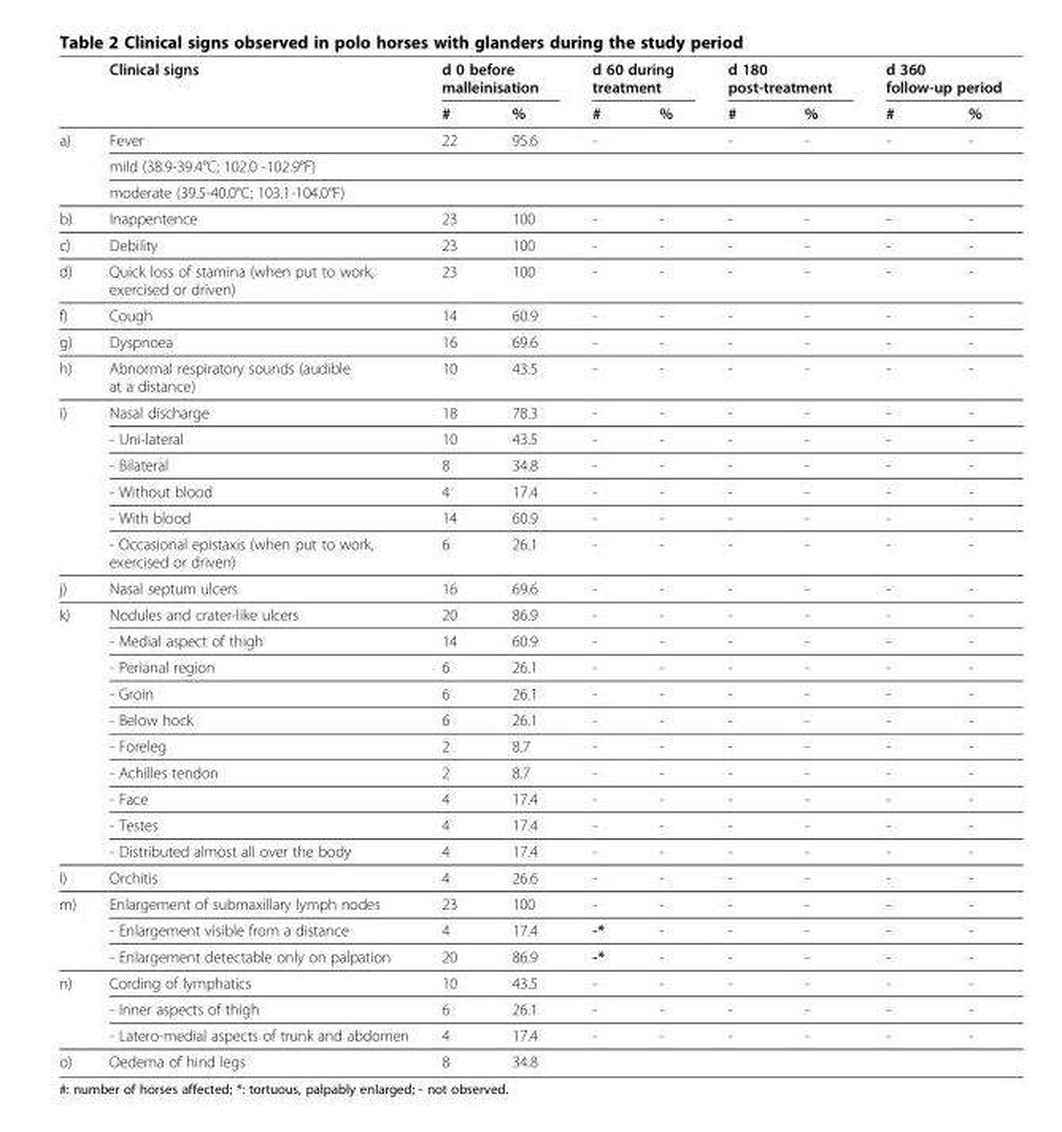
<table><thead><tr><td rowspan="2"></td><td rowspan="2">Clinical signs</td><td colspan="2">d 0 before malleinisation</td><td colspan="2">d 60 during treatment</td><td colspan="2">d 180 post-treatment</td><td colspan="2">d 360 follow-up period</td></tr><tr><td>#</td><td>%</td><td>#</td><td>%</td><td>#</td><td>%</td><td>#</td><td>%</td></tr></thead><tbody><tr><td rowspan="3">a)</td><td>Fever</td><td>22</td><td>95.6</td><td>-</td><td></td><td>-</td><td>-</td><td>-</td><td>-</td></tr><tr><td>mild (38.9-39.4°C; 102.0 -102.9°F)</td><td></td><td></td><td></td><td></td><td></td><td></td><td></td><td></td></tr><tr><td>moderate (39.5-40.0°C; 103.1-104.0°F)</td><td></td><td></td><td></td><td></td><td></td><td></td><td></td><td></td></tr><tr><td>b)</td><td>Inappentence</td><td>23</td><td>100</td><td>-</td><td>-</td><td>-</td><td>-</td><td>-</td><td>-</td></tr><tr><td>c)</td><td>Debility</td><td>23</td><td>100</td><td>-</td><td>-</td><td>-</td><td>-</td><td>-</td><td>-</td></tr><tr><td>d)</td><td>Quick loss of stamina (when put to work, exercised or driven)</td><td>23</td><td>100</td><td>-</td><td>-</td><td>-</td><td>-</td><td>-</td><td>-</td></tr><tr><td>f)</td><td>Cough</td><td>14</td><td>60.9</td><td>-</td><td>-</td><td>-</td><td>-</td><td>-</td><td>-</td></tr><tr><td>g)</td><td>Dyspnoea</td><td>16</td><td>69.6</td><td>-</td><td>-</td><td>-</td><td>-</td><td>-</td><td>-</td></tr><tr><td>h)</td><td>Abnormal respiratory sounds (audible at a distance)</td><td>10</td><td>43.5</td><td>-</td><td>-</td><td>-</td><td>-</td><td>-</td><td>-</td></tr><tr><td rowspan="6">i)</td><td>Nasal discharge</td><td>18</td><td>78.3</td><td>-</td><td>-</td><td>-</td><td>-</td><td>-</td><td>-</td></tr><tr><td>- Uni-lateral</td><td>10</td><td>43.5</td><td>-</td><td>-</td><td>-</td><td>-</td><td>-</td><td>-</td></tr><tr><td>- Bilateral</td><td>8</td><td>34.8</td><td>-</td><td>-</td><td>-</td><td>-</td><td>-</td><td>-</td></tr><tr><td>- Without blood</td><td>4</td><td>17.4</td><td>-</td><td>-</td><td>-</td><td>-</td><td>-</td><td>-</td></tr><tr><td>- With blood</td><td>14</td><td>60.9</td><td>-</td><td>-</td><td>-</td><td>-</td><td>-</td><td>-</td></tr><tr><td>- Occasional epistaxis (when put to work, exercised or driven)</td><td>6</td><td>26.1</td><td>-</td><td>-</td><td>-</td><td>-</td><td>-</td><td>-</td></tr><tr><td>j)</td><td>Nasal septum ulcers</td><td>16</td><td>69.6</td><td>-</td><td>-</td><td>-</td><td>-</td><td>-</td><td>-</td></tr><tr><td rowspan="10">k)</td><td>Nodules and crater-like ulcers</td><td>20</td><td>86.9</td><td>-</td><td>-</td><td>-</td><td>-</td><td>-</td><td>-</td></tr><tr><td>- Medial aspect of thigh</td><td>14</td><td>60.9</td><td>-</td><td>-</td><td>-</td><td>-</td><td>-</td><td>-</td></tr><tr><td>- Perianal region</td><td>6</td><td>26.1</td><td>-</td><td>-</td><td>-</td><td>-</td><td>-</td><td>-</td></tr><tr><td>- Groin</td><td>6</td><td>26.1</td><td>-</td><td>-</td><td>-</td><td>-</td><td>-</td><td>-</td></tr><tr><td>- Below hock</td><td>6</td><td>26.1</td><td>-</td><td>-</td><td>-</td><td>-</td><td>-</td><td>-</td></tr><tr><td>- Foreleg</td><td>2</td><td>8.7</td><td>-</td><td>-</td><td>-</td><td>-</td><td>-</td><td>-</td></tr><tr><td>- Achilles tendon</td><td>2</td><td>8.7</td><td>-</td><td>-</td><td>-</td><td>-</td><td>-</td><td>-</td></tr><tr><td>- Face</td><td>4</td><td>17.4</td><td>-</td><td>-</td><td>-</td><td>-</td><td>-</td><td>-</td></tr><tr><td>- Testes</td><td>4</td><td>17.4</td><td>-</td><td>-</td><td>-</td><td>-</td><td>-</td><td>-</td></tr><tr><td>- Distributed almost all over the body</td><td>4</td><td>17.4</td><td>-</td><td>-</td><td>-</td><td>-</td><td>-</td><td>-</td></tr><tr><td>l)</td><td>Orchitis</td><td>4</td><td>26.6</td><td>-</td><td>-</td><td>-</td><td>-</td><td>-</td><td>-</td></tr><tr><td rowspan="3">m)</td><td>Enlargement of submaxillary lymph nodes</td><td>23</td><td>100</td><td>-</td><td>-</td><td>-</td><td>-</td><td>-</td><td>-</td></tr><tr><td>- Enlargement visible from a distance</td><td>4</td><td>17.4</td><td>-*</td><td>-</td><td>-</td><td>-</td><td>-</td><td>-</td></tr><tr><td>- Enlargement detectable only on palpation</td><td>20</td><td>86.9</td><td>-*</td><td>-</td><td>-</td><td>-</td><td>-</td><td>-</td></tr><tr><td rowspan="3">n)</td><td>Cording of lymphatics</td><td>10</td><td>43.5</td><td>-</td><td>-</td><td>-</td><td>-</td><td>-</td><td>-</td></tr><tr><td>- Inner aspects of thigh</td><td>6</td><td>26.1</td><td>-</td><td>-</td><td>-</td><td>-</td><td>-</td><td>-</td></tr><tr><td>- Latero-medial aspects of trunk and abdomen</td><td>4</td><td>17.4</td><td>-</td><td>-</td><td>-</td><td>-</td><td>-</td><td>-</td></tr><tr><td>o)</td><td>Oedema of hind legs</td><td>8</td><td>34.8</td><td></td><td></td><td></td><td></td><td></td><td></td></tr></tbody></table>